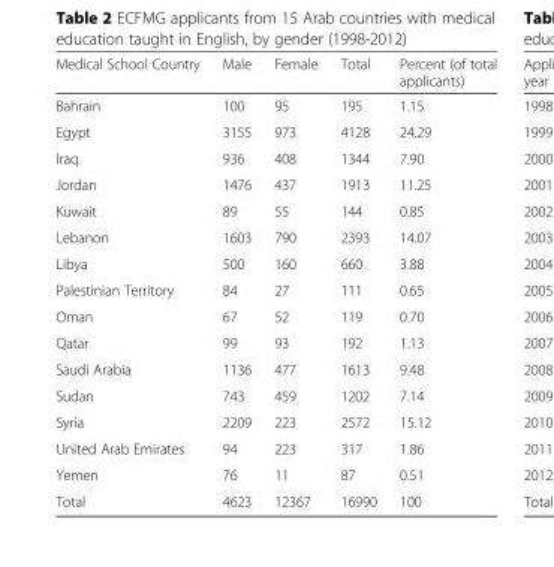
<table><thead><tr><td>Medical School Country</td><td>Male</td><td>Female</td><td>Total</td><td>Percent (of total applicants)</td></tr></thead><tbody><tr><td>Bahrain</td><td>100</td><td>95</td><td>195</td><td>1.15</td></tr><tr><td>Egypt</td><td>3155</td><td>973</td><td>4128</td><td>24.29</td></tr><tr><td>Iraq</td><td>936</td><td>408</td><td>1344</td><td>7.90</td></tr><tr><td>Jordan</td><td>1476</td><td>437</td><td>1913</td><td>11.25</td></tr><tr><td>Kuwait</td><td>89</td><td>55</td><td>144</td><td>0.85</td></tr><tr><td>Lebanon</td><td>1603</td><td>790</td><td>2393</td><td>14.07</td></tr><tr><td>Libya</td><td>500</td><td>160</td><td>660</td><td>3.88</td></tr><tr><td>Palestinian Territory</td><td>84</td><td>27</td><td>111</td><td>0.65</td></tr><tr><td>Oman</td><td>67</td><td>52</td><td>119</td><td>0.70</td></tr><tr><td>Qatar</td><td>99</td><td>93</td><td>192</td><td>1.13</td></tr><tr><td>Saudi Arabia</td><td>1136</td><td>477</td><td>1613</td><td>9.48</td></tr><tr><td>Sudan</td><td>743</td><td>459</td><td>1202</td><td>7.14</td></tr><tr><td>Syria</td><td>2209</td><td>223</td><td>2572</td><td>15.12</td></tr><tr><td>United Arab Emirates</td><td>94</td><td>223</td><td>317</td><td>1.86</td></tr><tr><td>Yemen</td><td>76</td><td>11</td><td>87</td><td>0.51</td></tr><tr><td>Total</td><td>4623</td><td>12367</td><td>16990</td><td>100</td></tr></tbody></table>